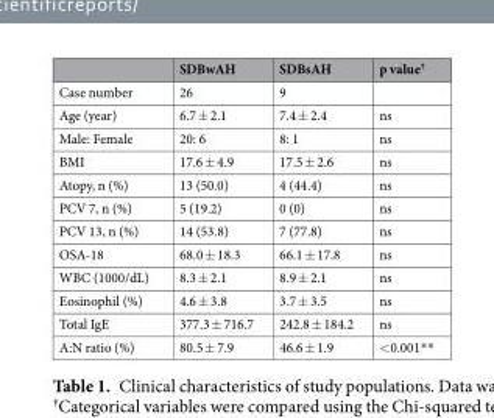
<table><thead><tr><td></td><td>SDBwAH</td><td>SDBsAH</td><td>p value<sup>†</sup></td></tr></thead><tbody><tr><td>Case number</td><td>26</td><td>9</td><td></td></tr><tr><td>Age (year)</td><td>6.7 ± 2.1</td><td>7.4 ± 2.4</td><td>ns</td></tr><tr><td>Male: Female</td><td>20: 6</td><td>8: 1</td><td>ns</td></tr><tr><td>BMI</td><td>17.6 ± 4.9</td><td>17.5 ± 2.6</td><td>ns</td></tr><tr><td>Atopy, n (%)</td><td>13 (50.0)</td><td>4 (44.4)</td><td>ns</td></tr><tr><td>PCV 7, n (%)</td><td>5 (19.2)</td><td>0 (0)</td><td>ns</td></tr><tr><td>PCV 13, n (%)</td><td>14 (53.8)</td><td>7 (77.8)</td><td>ns</td></tr><tr><td>OSA-18</td><td>68.0 ± 18.3</td><td>66.1 ± 17.8</td><td>ns</td></tr><tr><td>WBC (1000/dL)</td><td>8.3 ± 2.1</td><td>8.9 ± 2.1</td><td>ns</td></tr><tr><td>Eosinophil (%)</td><td>4.6 ± 3.8</td><td>3.7 ± 3.5</td><td>ns</td></tr><tr><td>Total IgE</td><td>377.3 ± 716.7</td><td>242.8 ± 184.2</td><td>ns</td></tr><tr><td>A:N ratio (%)</td><td>80.5 ± 7.9</td><td>46.6 ± 1.9</td><td>&lt;0.001**</td></tr></tbody></table>